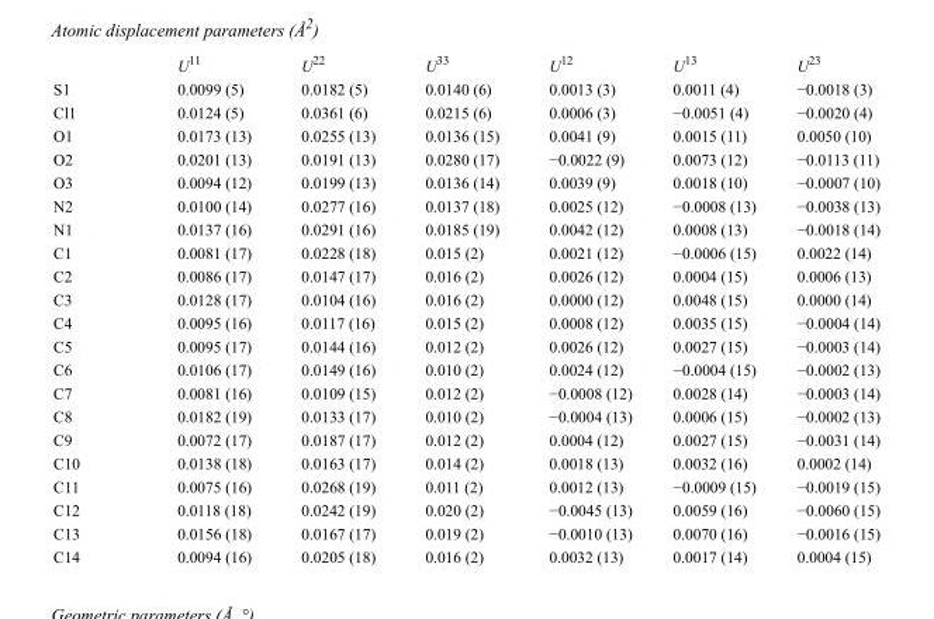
<table><thead><tr><td></td><td>U<sup>11</sup></td><td>U<sup>22</sup></td><td>U<sup>33</sup></td><td>U<sup>12</sup></td><td>U<sup>13</sup></td><td>U<sup>23</sup></td></tr></thead><tbody><tr><td>S1</td><td>0.0099 (5)</td><td>0.0182 (5)</td><td>0.0140 (6)</td><td>0.0013 (3)</td><td>0.0011 (4)</td><td>−0.0018 (3)</td></tr><tr><td>Cl1</td><td>0.0124 (5)</td><td>0.0361 (6)</td><td>0.0215 (6)</td><td>0.0006 (3)</td><td>−0.0051 (4)</td><td>−0.0020 (4)</td></tr><tr><td>O1</td><td>0.0173 (13)</td><td>0.0255 (13)</td><td>0.0136 (15)</td><td>0.0041 (9)</td><td>0.0015 (11)</td><td>0.0050 (10)</td></tr><tr><td>O2</td><td>0.0201 (13)</td><td>0.0191 (13)</td><td>0.0280 (17)</td><td>−0.0022 (9)</td><td>0.0073 (12)</td><td>−0.0113 (11)</td></tr><tr><td>O3</td><td>0.0094 (12)</td><td>0.0199 (13)</td><td>0.0136 (14)</td><td>0.0039 (9)</td><td>0.0018 (10)</td><td>−0.0007 (10)</td></tr><tr><td>N2</td><td>0.0100 (14)</td><td>0.0277 (16)</td><td>0.0137 (18)</td><td>0.0025 (12)</td><td>−0.0008 (13)</td><td>−0.0038 (13)</td></tr><tr><td>N1</td><td>0.0137 (16)</td><td>0.0291 (16)</td><td>0.0185 (19)</td><td>0.0042 (12)</td><td>0.0008 (13)</td><td>−0.0018 (14)</td></tr><tr><td>C1</td><td>0.0081 (17)</td><td>0.0228 (18)</td><td>0.015 (2)</td><td>0.0021 (12)</td><td>−0.0006 (15)</td><td>0.0022 (14)</td></tr><tr><td>C2</td><td>0.0086 (17)</td><td>0.0147 (17)</td><td>0.016 (2)</td><td>0.0026 (12)</td><td>0.0004 (15)</td><td>0.0006 (13)</td></tr><tr><td>C3</td><td>0.0128 (17)</td><td>0.0104 (16)</td><td>0.016 (2)</td><td>0.0000 (12)</td><td>0.0048 (15)</td><td>0.0000 (14)</td></tr><tr><td>C4</td><td>0.0095 (16)</td><td>0.0117 (16)</td><td>0.015 (2)</td><td>0.0008 (12)</td><td>0.0035 (15)</td><td>−0.0004 (14)</td></tr><tr><td>C5</td><td>0.0095 (17)</td><td>0.0144 (16)</td><td>0.012 (2)</td><td>0.0026 (12)</td><td>0.0027 (15)</td><td>−0.0003 (14)</td></tr><tr><td>C6</td><td>0.0106 (17)</td><td>0.0149 (16)</td><td>0.010 (2)</td><td>0.0024 (12)</td><td>−0.0004 (15)</td><td>−0.0002 (13)</td></tr><tr><td>C7</td><td>0.0081 (16)</td><td>0.0109 (15)</td><td>0.012 (2)</td><td>−0.0008 (12)</td><td>0.0028 (14)</td><td>−0.0003 (14)</td></tr><tr><td>C8</td><td>0.0182 (19)</td><td>0.0133 (17)</td><td>0.010 (2)</td><td>−0.0004 (13)</td><td>0.0006 (15)</td><td>−0.0002 (13)</td></tr><tr><td>C9</td><td>0.0072 (17)</td><td>0.0187 (17)</td><td>0.012 (2)</td><td>0.0004 (12)</td><td>0.0027 (15)</td><td>−0.0031 (14)</td></tr><tr><td>C10</td><td>0.0138 (18)</td><td>0.0163 (17)</td><td>0.014 (2)</td><td>0.0018 (13)</td><td>0.0032 (16)</td><td>0.0002 (14)</td></tr><tr><td>C11</td><td>0.0075 (16)</td><td>0.0268 (19)</td><td>0.011 (2)</td><td>0.0012 (13)</td><td>−0.0009 (15)</td><td>−0.0019 (15)</td></tr><tr><td>C12</td><td>0.0118 (18)</td><td>0.0242 (19)</td><td>0.020 (2)</td><td>−0.0045 (13)</td><td>0.0059 (16)</td><td>−0.0060 (15)</td></tr><tr><td>C13</td><td>0.0156 (18)</td><td>0.0167 (17)</td><td>0.019 (2)</td><td>−0.0010 (13)</td><td>0.0070 (16)</td><td>−0.0016 (15)</td></tr><tr><td>C14</td><td>0.0094 (16)</td><td>0.0205 (18)</td><td>0.016 (2)</td><td>0.0032 (13)</td><td>0.0017 (14)</td><td>0.0004 (15)</td></tr></tbody></table>